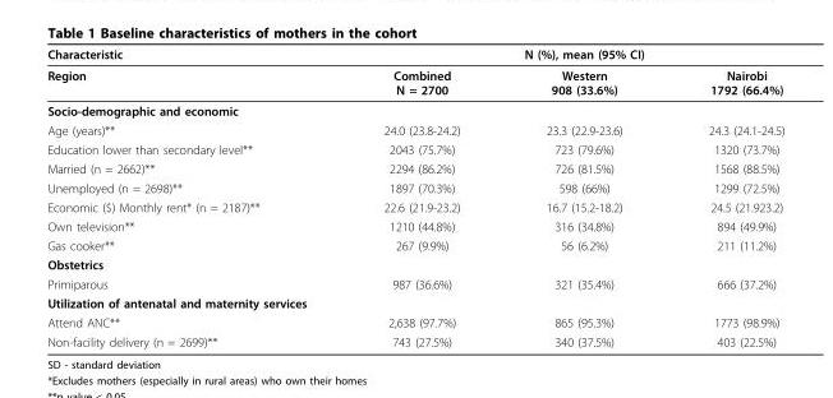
<table><thead><tr><td rowspan="2">Characteristic Region</td><td colspan="3">N (%), mean (95% CI)</td></tr><tr><td>Combined N = 2700</td><td>Western 908 (33.6%)</td><td>Nairobi 1792 (66.4%)</td></tr></thead><tbody><tr><td colspan="4">Socio-demographic and economic</td></tr><tr><td>Age (years)**</td><td>24.0 (23.8-24.2)</td><td>23.3 (22.9-23.6)</td><td>24.3 (24.1-24.5)</td></tr><tr><td>Education lower than secondary level**</td><td>2043 (75.7%)</td><td>723 (79.6%)</td><td>1320 (73.7%)</td></tr><tr><td>Married (n = 2662)**</td><td>2294 (86.2%)</td><td>726 (81.5%)</td><td>1568 (88.5%)</td></tr><tr><td>Unemployed (n = 2698)**</td><td>1897 (70.3%)</td><td>598 (66%)</td><td>1299 (72.5%)</td></tr><tr><td>Economic ($) Monthly rent* (n = 2187)**</td><td>22.6 (21.9-23.2)</td><td>16.7 (15.2-18.2)</td><td>24.5 (21.923.2)</td></tr><tr><td>Own television**</td><td>1210 (44.8%)</td><td>316 (34.8%)</td><td>894 (49.9%)</td></tr><tr><td>Gas cooker**</td><td>267 (9.9%)</td><td>56 (6.2%)</td><td>211 (11.2%)</td></tr><tr><td colspan="4">Obstetrics</td></tr><tr><td>Primiparous</td><td>987 (36.6%)</td><td>321 (35.4%)</td><td>666 (37.2%)</td></tr><tr><td colspan="4">Utilization of antenatal and maternity services</td></tr><tr><td>Attend ANC**</td><td>2,638 (97.7%)</td><td>865 (95.3%)</td><td>1773 (98.9%)</td></tr><tr><td>Non-facility delivery (n = 2699)**</td><td>743 (27.5%)</td><td>340 (37.5%)</td><td>403 (22.5%)</td></tr></tbody></table>